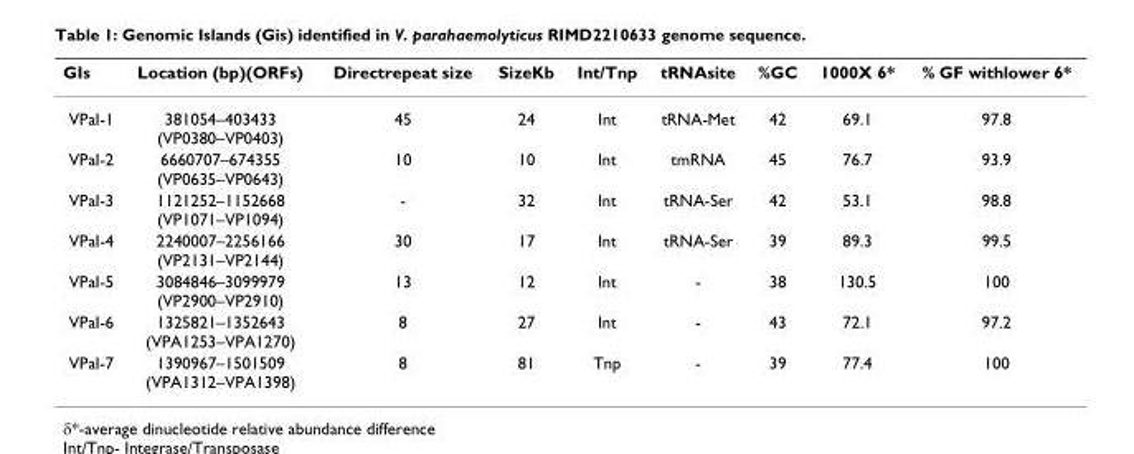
<table><thead><tr><td>GIs</td><td>Location (bp)(ORFs)</td><td>Directrepeat size</td><td>SizeKb</td><td>Int/Tnp</td><td>tRNAsite</td><td>%GC</td><td>1000X 6*</td><td>% GF withlower 6*</td></tr></thead><tbody><tr><td>VPaI-1</td><td>381054–403433 (VP0380–VP0403)</td><td>45</td><td>24</td><td>Int</td><td>tRNA-Met</td><td>42</td><td>69.1</td><td>97.8</td></tr><tr><td>VPaI-2</td><td>6660707–674355 (VP0635–VP0643)</td><td>10</td><td>10</td><td>Int</td><td>tmRNA</td><td>45</td><td>76.7</td><td>93.9</td></tr><tr><td>VPaI-3</td><td>1121252–1152668 (VP1071–VP1094)</td><td>-</td><td>32</td><td>Int</td><td>tRNA-Ser</td><td>42</td><td>53.1</td><td>98.8</td></tr><tr><td>VPaI-4</td><td>2240007–2256166 (VP2131–VP2144)</td><td>30</td><td>17</td><td>Int</td><td>tRNA-Ser</td><td>39</td><td>89.3</td><td>99.5</td></tr><tr><td>VPaI-5</td><td>3084846–3099979 (VP2900–VP2910)</td><td>13</td><td>12</td><td>Int</td><td>-</td><td>38</td><td>130.5</td><td>100</td></tr><tr><td>VPaI-6</td><td>1325821–1352643 (VPA1253–VPA1270)</td><td>8</td><td>27</td><td>Int</td><td>-</td><td>43</td><td>72.1</td><td>97.2</td></tr><tr><td>VPaI-7</td><td>1390967–1501509 (VPA1312–VPA1398)</td><td>8</td><td>81</td><td>Tnp</td><td>-</td><td>39</td><td>77.4</td><td>100</td></tr></tbody></table>